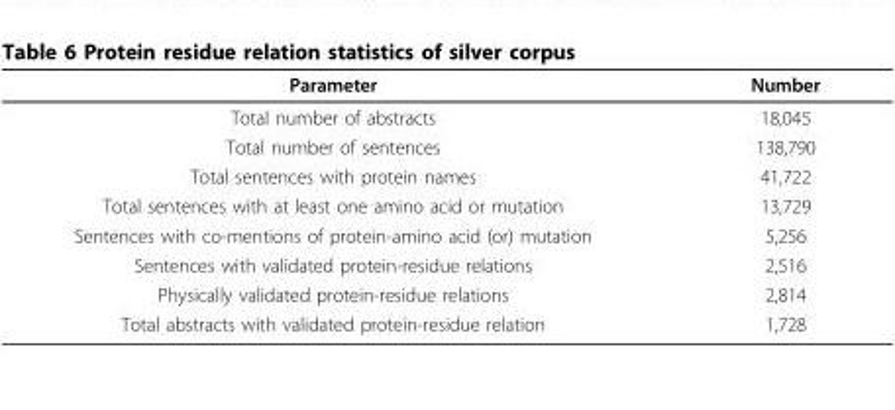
<table><thead><tr><td>Parameter</td><td>Number</td></tr></thead><tbody><tr><td>Total number of abstracts</td><td>18,045</td></tr><tr><td>Total number of sentences</td><td>138,790</td></tr><tr><td>Total sentences with protein names</td><td>41,722</td></tr><tr><td>Total sentences with at least one amino acid or mutation</td><td>13,729</td></tr><tr><td>Sentences with co-mentions of protein-amino acid (or) mutation</td><td>5,256</td></tr><tr><td>Sentences with validated protein-residue relations</td><td>2,516</td></tr><tr><td>Physically validated protein-residue relations</td><td>2,814</td></tr><tr><td>Total abstracts with validated protein-residue relation</td><td>1,728</td></tr></tbody></table>